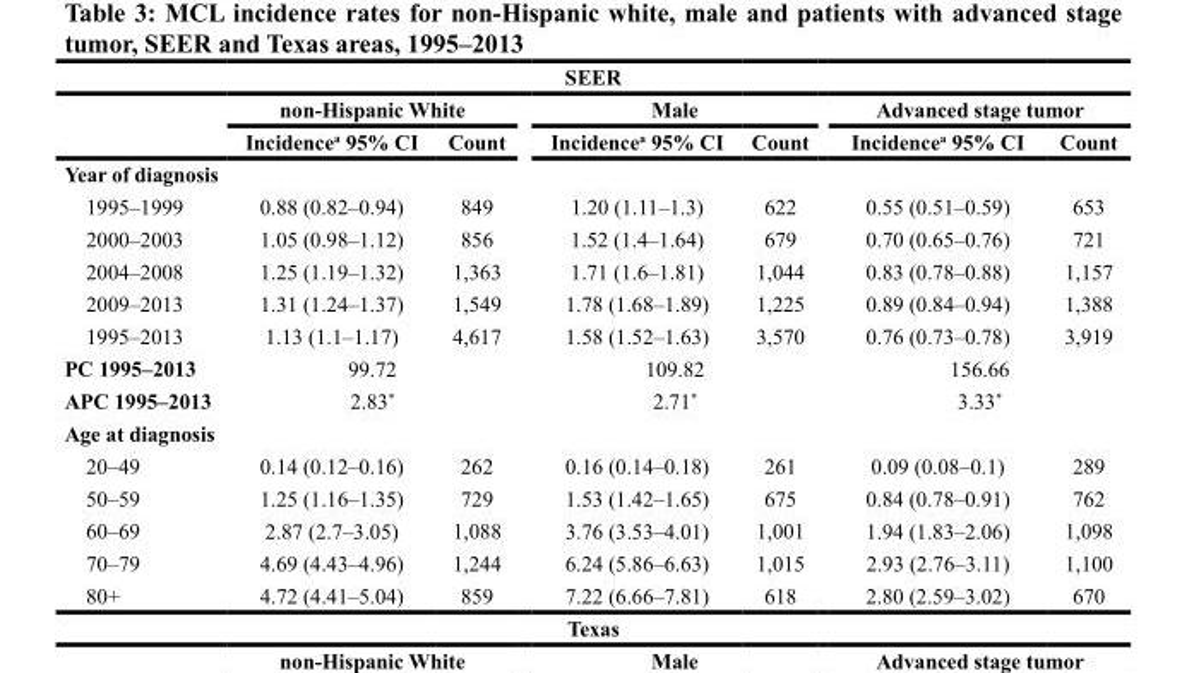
<table><thead><tr><td colspan="7">SEER</td></tr><tr><td rowspan="2"></td><td colspan="2">non-Hispanic White</td><td colspan="2">Male</td><td colspan="2">Advanced stage tumor</td></tr><tr><td>Incidence<sup>a</sup> 95% CI</td><td>Count</td><td>Incidence<sup>a</sup> 95% CI</td><td>Count</td><td>Incidence<sup>a</sup> 95% CI</td><td>Count</td></tr></thead><tbody><tr><td colspan="7">Year of diagnosis</td></tr><tr><td>1995–1999</td><td>0.88 (0.82–0.94)</td><td>849</td><td>1.20 (1.11–1.3)</td><td>622</td><td>0.55 (0.51–0.59)</td><td>653</td></tr><tr><td>2000–2003</td><td>1.05 (0.98–1.12)</td><td>856</td><td>1.52 (1.4–1.64)</td><td>679</td><td>0.70 (0.65–0.76)</td><td>721</td></tr><tr><td>2004–2008</td><td>1.25 (1.19–1.32)</td><td>1,363</td><td>1.71 (1.6–1.81)</td><td>1,044</td><td>0.83 (0.78–0.88)</td><td>1,157</td></tr><tr><td>2009–2013</td><td>1.31 (1.24–1.37)</td><td>1,549</td><td>1.78 (1.68–1.89)</td><td>1,225</td><td>0.89 (0.84–0.94)</td><td>1,388</td></tr><tr><td>1995–2013</td><td>1.13 (1.1–1.17)</td><td>4,617</td><td>1.58 (1.52–1.63)</td><td>3,570</td><td>0.76 (0.73–0.78)</td><td>3,919</td></tr><tr><td>PC 1995–2013</td><td colspan="2">99.72</td><td colspan="2">109.82</td><td colspan="2">156.66</td></tr><tr><td>APC 1995–2013</td><td colspan="2">2.83*</td><td colspan="2">2.71*</td><td colspan="2">3.33*</td></tr><tr><td colspan="7">Age at diagnosis</td></tr><tr><td>20–49</td><td>0.14 (0.12–0.16)</td><td>262</td><td>0.16 (0.14–0.18)</td><td>261</td><td>0.09 (0.08–0.1)</td><td>289</td></tr><tr><td>50–59</td><td>1.25 (1.16–1.35)</td><td>729</td><td>1.53 (1.42–1.65)</td><td>675</td><td>0.84 (0.78–0.91)</td><td>762</td></tr><tr><td>60–69</td><td>2.87 (2.7–3.05)</td><td>1,088</td><td>3.76 (3.53–4.01)</td><td>1,001</td><td>1.94 (1.83–2.06)</td><td>1,098</td></tr><tr><td>70–79</td><td>4.69 (4.43–4.96)</td><td>1,244</td><td>6.24 (5.86–6.63)</td><td>1,015</td><td>2.93 (2.76–3.11)</td><td>1,100</td></tr><tr><td>80+</td><td>4.72 (4.41–5.04)</td><td>859</td><td>7.22 (6.66–7.81)</td><td>618</td><td>2.80 (2.59–3.02)</td><td>670</td></tr></tbody></table>